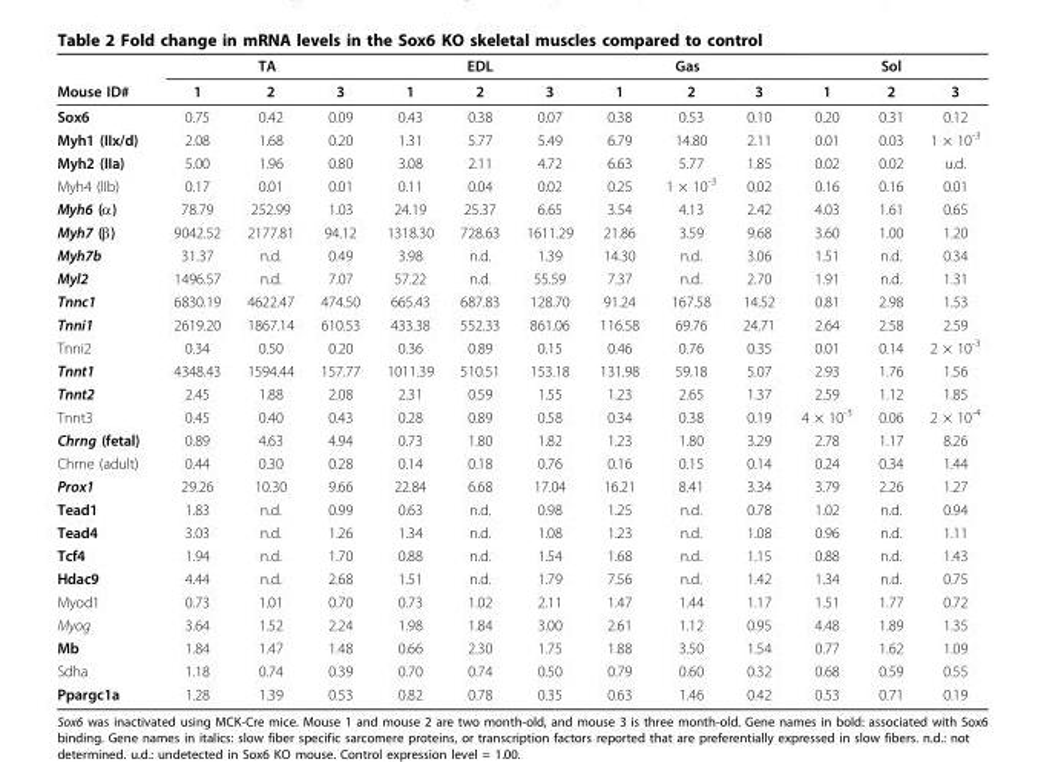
<table><thead><tr><td rowspan="2">Mouse ID#</td><td colspan="3">TA</td><td colspan="3">EDL</td><td colspan="3">Gas</td><td colspan="3">Sol</td></tr><tr><td>1</td><td>2</td><td>3</td><td>1</td><td>2</td><td>3</td><td>1</td><td>2</td><td>3</td><td>1</td><td>2</td><td>3</td></tr></thead><tbody><tr><td>Sox6</td><td>0.75</td><td>0.42</td><td>0.09</td><td>0.43</td><td>0.38</td><td>0.07</td><td>0.38</td><td>0.53</td><td>0.10</td><td>0.20</td><td>0.31</td><td>0.12</td></tr><tr><td>Myh1 (IIx/d)</td><td>2.08</td><td>1.68</td><td>0.20</td><td>1.31</td><td>5.77</td><td>5.49</td><td>6.79</td><td>14.80</td><td>2.11</td><td>0.01</td><td>0.03</td><td>1 × 10<sup>-3</sup></td></tr><tr><td>Myh2 (IIa)</td><td>5.00</td><td>1.96</td><td>0.80</td><td>3.08</td><td>2.11</td><td>4.72</td><td>6.63</td><td>5.77</td><td>1.85</td><td>0.02</td><td>0.02</td><td>u.d.</td></tr><tr><td>Myh4 (IIb)</td><td>0.17</td><td>0.01</td><td>0.01</td><td>0.11</td><td>0.04</td><td>0.02</td><td>0.25</td><td>1 × 10<sup>-3</sup></td><td>0.02</td><td>0.16</td><td>0.16</td><td>0.01</td></tr><tr><td>Myh6 (α)</td><td>78.79</td><td>252.99</td><td>1.03</td><td>24.19</td><td>25.37</td><td>6.65</td><td>3.54</td><td>4.13</td><td>2.42</td><td>4.03</td><td>1.61</td><td>0.65</td></tr><tr><td>Myh7 (β)</td><td>9042.52</td><td>2177.81</td><td>94.12</td><td>1318.30</td><td>728.63</td><td>1611.29</td><td>21.86</td><td>3.59</td><td>9.68</td><td>3.60</td><td>1.00</td><td>1.20</td></tr><tr><td>Myh7b</td><td>31.37</td><td>n.d.</td><td>0.49</td><td>3.98</td><td>n.d.</td><td>1.39</td><td>14.30</td><td>n.d.</td><td>3.06</td><td>1.51</td><td>n.d.</td><td>0.34</td></tr><tr><td>Myl2</td><td>1496.57</td><td>n.d.</td><td>7.07</td><td>57.22</td><td>n.d.</td><td>55.59</td><td>7.37</td><td>n.d.</td><td>2.70</td><td>1.91</td><td>n.d.</td><td>1.31</td></tr><tr><td>Tnnc1</td><td>6830.19</td><td>4622.47</td><td>474.50</td><td>665.43</td><td>687.83</td><td>128.70</td><td>91.24</td><td>167.58</td><td>14.52</td><td>0.81</td><td>2.98</td><td>1.53</td></tr><tr><td>Tnni1</td><td>2619.20</td><td>1867.14</td><td>610.53</td><td>433.38</td><td>552.33</td><td>861.06</td><td>116.58</td><td>69.76</td><td>24.71</td><td>2.64</td><td>2.58</td><td>2.59</td></tr><tr><td>Tnni2</td><td>0.34</td><td>0.50</td><td>0.20</td><td>0.36</td><td>0.89</td><td>0.15</td><td>0.46</td><td>0.76</td><td>0.35</td><td>0.01</td><td>0.14</td><td>2 × 10<sup>-3</sup></td></tr><tr><td>Tnnt1</td><td>4348.43</td><td>1594.44</td><td>157.77</td><td>1011.39</td><td>510.51</td><td>153.18</td><td>131.98</td><td>59.18</td><td>5.07</td><td>2.93</td><td>1.76</td><td>1.56</td></tr><tr><td>Tnnt2</td><td>2.45</td><td>1.88</td><td>2.08</td><td>2.31</td><td>0.59</td><td>1.55</td><td>1.23</td><td>2.65</td><td>1.37</td><td>2.59</td><td>1.12</td><td>1.85</td></tr><tr><td>Tnnt3</td><td>0.45</td><td>0.40</td><td>0.43</td><td>0.28</td><td>0.89</td><td>0.58</td><td>0.34</td><td>0.38</td><td>0.19</td><td>4 × 10<sup>-3</sup></td><td>0.06</td><td>2 × 10<sup>-4</sup></td></tr><tr><td>Chrng (fetal)</td><td>0.89</td><td>4.63</td><td>4.94</td><td>0.73</td><td>1.80</td><td>1.82</td><td>1.23</td><td>1.80</td><td>3.29</td><td>2.78</td><td>1.17</td><td>8.26</td></tr><tr><td>Chrne (adult)</td><td>0.44</td><td>0.30</td><td>0.28</td><td>0.14</td><td>0.18</td><td>0.76</td><td>0.16</td><td>0.15</td><td>0.14</td><td>0.24</td><td>0.34</td><td>1.44</td></tr><tr><td>Prox1</td><td>29.26</td><td>10.30</td><td>9.66</td><td>22.84</td><td>6.68</td><td>17.04</td><td>16.21</td><td>8.41</td><td>3.34</td><td>3.79</td><td>2.26</td><td>1.27</td></tr><tr><td>Tead1</td><td>1.83</td><td>n.d.</td><td>0.99</td><td>0.63</td><td>n.d.</td><td>0.98</td><td>1.25</td><td>n.d.</td><td>0.78</td><td>1.02</td><td>n.d.</td><td>0.94</td></tr><tr><td>Tead4</td><td>3.03</td><td>n.d.</td><td>1.26</td><td>1.34</td><td>n.d.</td><td>1.08</td><td>1.23</td><td>n.d.</td><td>1.08</td><td>0.96</td><td>n.d.</td><td>1.11</td></tr><tr><td>Tcf4</td><td>1.94</td><td>n.d.</td><td>1.70</td><td>0.88</td><td>n.d.</td><td>1.54</td><td>1.68</td><td>n.d.</td><td>1.15</td><td>0.88</td><td>n.d.</td><td>1.43</td></tr><tr><td>Hdac9</td><td>4.44</td><td>n.d.</td><td>2.68</td><td>1.51</td><td>n.d.</td><td>1.79</td><td>7.56</td><td>n.d.</td><td>1.42</td><td>1.34</td><td>n.d.</td><td>0.75</td></tr><tr><td>Myod1</td><td>0.73</td><td>1.01</td><td>0.70</td><td>0.73</td><td>1.02</td><td>2.11</td><td>1.47</td><td>1.44</td><td>1.17</td><td>1.51</td><td>1.77</td><td>0.72</td></tr><tr><td>Myog</td><td>3.64</td><td>1.52</td><td>2.24</td><td>1.98</td><td>1.84</td><td>3.00</td><td>2.61</td><td>1.12</td><td>0.95</td><td>4.48</td><td>1.89</td><td>1.35</td></tr><tr><td>Mb</td><td>1.84</td><td>1.47</td><td>1.48</td><td>0.66</td><td>2.30</td><td>1.75</td><td>1.88</td><td>3.50</td><td>1.54</td><td>0.77</td><td>1.62</td><td>1.09</td></tr><tr><td>Sdha</td><td>1.18</td><td>0.74</td><td>0.39</td><td>0.70</td><td>0.74</td><td>0.50</td><td>0.79</td><td>0.60</td><td>0.32</td><td>0.68</td><td>0.59</td><td>0.55</td></tr><tr><td>Ppargc1a</td><td>1.28</td><td>1.39</td><td>0.53</td><td>0.82</td><td>0.78</td><td>0.35</td><td>0.63</td><td>1.46</td><td>0.42</td><td>0.53</td><td>0.71</td><td>0.19</td></tr></tbody></table>